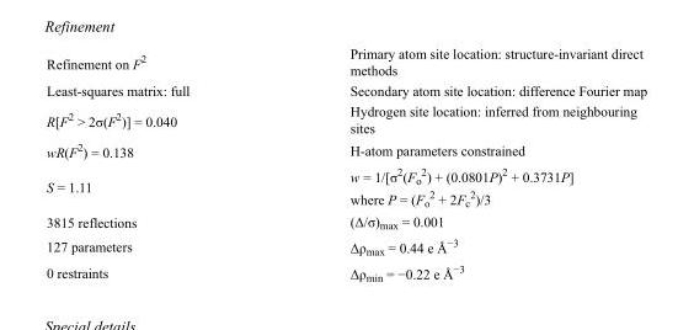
<table><tbody><tr><td>Refinement on F<sup>2</sup></td><td>Primary atom site location: structure-invariant direct methods</td></tr><tr><td>Least-squares matrix: full</td><td>Secondary atom site location: difference Fourier map</td></tr><tr><td>R[F<sup>2</sup> &gt; 2σ(F<sup>2</sup>)] = 0.040</td><td>Hydrogen site location: inferred from neighbouring sites</td></tr><tr><td>wR(F<sup>2</sup>) = 0.138</td><td>H-atom parameters constrained</td></tr><tr><td>S = 1.11</td><td>w = 1/[σ<sup>2</sup>(F<sub>o</sub> <sup>2</sup>) + (0.0801P)<sup>2</sup> + 0.3731P] where P = (F<sub>o</sub> <sup>2</sup> + 2F<sub>c</sub> <sup>2</sup>)/3</td></tr><tr><td>3815 reflections</td><td>(Δ/σ)<sub>max</sub> = 0.001</td></tr><tr><td>127 parameters</td><td>Δρ<sub>max</sub> = 0.44 e Å<sup>−3</sup></td></tr><tr><td>0 restraints</td><td>Δρ<sub>min</sub> = −0.22 e Å<sup>−3</sup></td></tr></tbody></table>